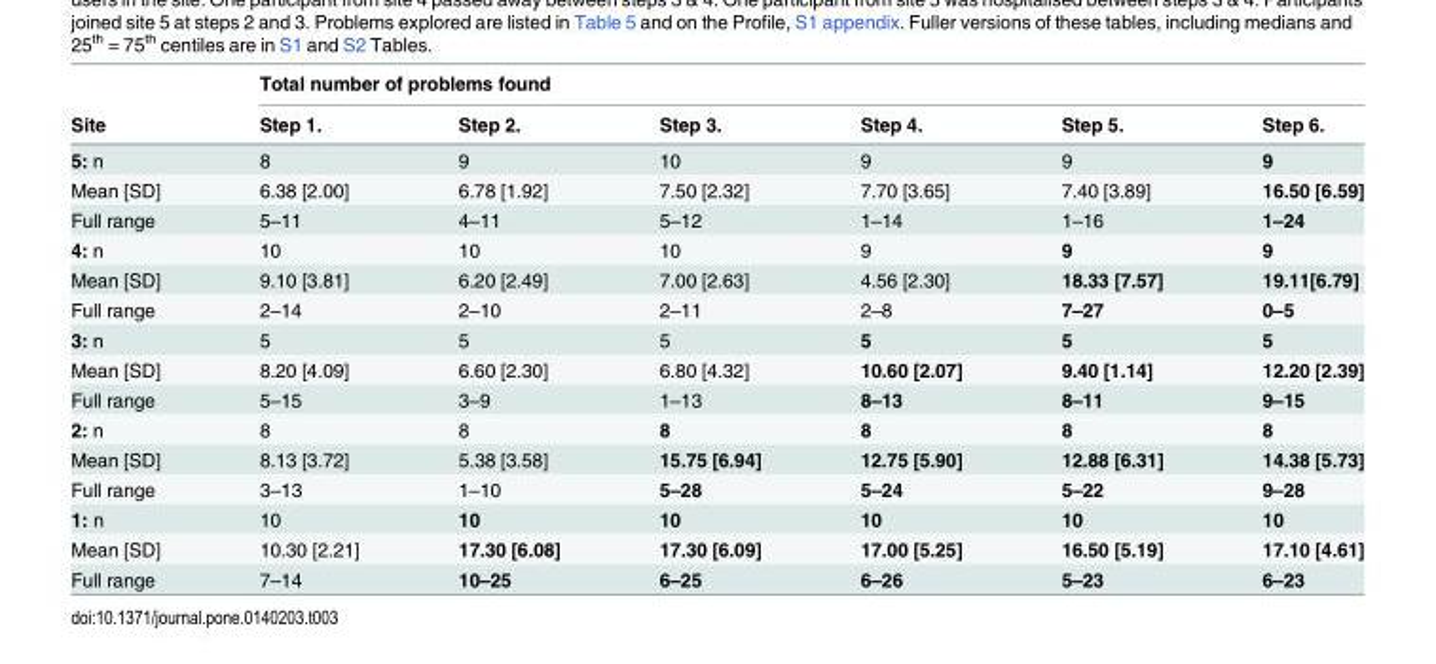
<table><thead><tr><td rowspan="2">Site</td><td colspan="6">Total number of problems found</td></tr><tr><td>Step 1.</td><td>Step 2.</td><td>Step 3.</td><td>Step 4.</td><td>Step 5.</td><td>Step 6.</td></tr></thead><tbody><tr><td>5: n</td><td>8</td><td>9</td><td>10</td><td>9</td><td>9</td><td>9</td></tr><tr><td>Mean [SD]</td><td>6.38 [2.00]</td><td>6.78 [1.92]</td><td>7.50 [2.32]</td><td>7.70 [3.65]</td><td>7.40 [3.89]</td><td>16.50 [6.59]</td></tr><tr><td>Full range</td><td>5–11</td><td>4–11</td><td>5–12</td><td>1–14</td><td>1–16</td><td>1–24</td></tr><tr><td>4: n</td><td>10</td><td>10</td><td>10</td><td>9</td><td>9</td><td>9</td></tr><tr><td>Mean [SD]</td><td>9.10 [3.81]</td><td>6.20 [2.49]</td><td>7.00 [2.63]</td><td>4.56 [2.30]</td><td>18.33 [7.57]</td><td>19.11[6.79]</td></tr><tr><td>Full range</td><td>2–14</td><td>2–10</td><td>2–11</td><td>2–8</td><td>7–27</td><td>0–5</td></tr><tr><td>3: n</td><td>5</td><td>5</td><td>5</td><td>5</td><td>5</td><td>5</td></tr><tr><td>Mean [SD]</td><td>8.20 [4.09]</td><td>6.60 [2.30]</td><td>6.80 [4.32]</td><td>10.60 [2.07]</td><td>9.40 [1.14]</td><td>12.20 [2.39]</td></tr><tr><td>Full range</td><td>5–15</td><td>3–9</td><td>1–13</td><td>8–13</td><td>8–11</td><td>9–15</td></tr><tr><td>2: n</td><td>8</td><td>8</td><td>8</td><td>8</td><td>8</td><td>8</td></tr><tr><td>Mean [SD]</td><td>8.13 [3.72]</td><td>5.38 [3.58]</td><td>15.75 [6.94]</td><td>12.75 [5.90]</td><td>12.88 [6.31]</td><td>14.38 [5.73]</td></tr><tr><td>Full range</td><td>3–13</td><td>1–10</td><td>5–28</td><td>5–24</td><td>5–22</td><td>9–28</td></tr><tr><td>1: n</td><td>10</td><td>10</td><td>10</td><td>10</td><td>10</td><td>10</td></tr><tr><td>Mean [SD]</td><td>10.30 [2.21]</td><td>17.30 [6.08]</td><td>17.30 [6.09]</td><td>17.00 [5.25]</td><td>16.50 [5.19]</td><td>17.10 [4.61]</td></tr><tr><td>Full range</td><td>7–14</td><td>10–25</td><td>6–25</td><td>6–26</td><td>5–23</td><td>6–23</td></tr></tbody></table>